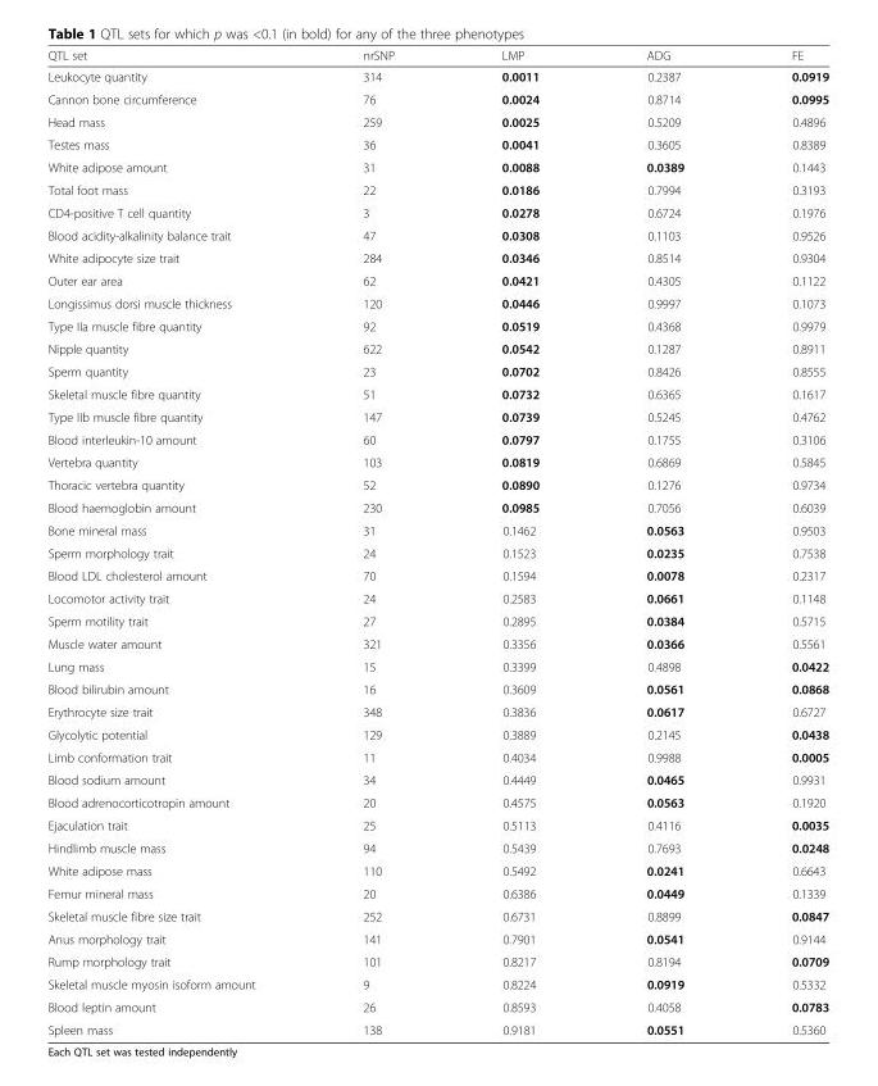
<table><thead><tr><td>QTL set</td><td>nrSNP</td><td>LMP</td><td>ADG</td><td>FE</td></tr></thead><tbody><tr><td>Leukocyte quantity</td><td>314</td><td>0.0011</td><td>0.2387</td><td>0.0919</td></tr><tr><td>Cannon bone circumference</td><td>76</td><td>0.0024</td><td>0.8714</td><td>0.0995</td></tr><tr><td>Head mass</td><td>259</td><td>0.0025</td><td>0.5209</td><td>0.4896</td></tr><tr><td>Testes mass</td><td>36</td><td>0.0041</td><td>0.3605</td><td>0.8389</td></tr><tr><td>White adipose amount</td><td>31</td><td>0.0088</td><td>0.0389</td><td>0.1443</td></tr><tr><td>Total foot mass</td><td>22</td><td>0.0186</td><td>0.7994</td><td>0.3193</td></tr><tr><td>CD4-positive T cell quantity</td><td>3</td><td>0.0278</td><td>0.6724</td><td>0.1976</td></tr><tr><td>Blood acidity-alkalinity balance trait</td><td>47</td><td>0.0308</td><td>0.1103</td><td>0.9526</td></tr><tr><td>White adipocyte size trait</td><td>284</td><td>0.0346</td><td>0.8514</td><td>0.9304</td></tr><tr><td>Outer ear area</td><td>62</td><td>0.0421</td><td>0.4305</td><td>0.1122</td></tr><tr><td>Longissimus dorsi muscle thickness</td><td>120</td><td>0.0446</td><td>0.9997</td><td>0.1073</td></tr><tr><td>Type IIa muscle fibre quantity</td><td>92</td><td>0.0519</td><td>0.4368</td><td>0.9979</td></tr><tr><td>Nipple quantity</td><td>622</td><td>0.0542</td><td>0.1287</td><td>0.8911</td></tr><tr><td>Sperm quantity</td><td>23</td><td>0.0702</td><td>0.8426</td><td>0.8555</td></tr><tr><td>Skeletal muscle fibre quantity</td><td>51</td><td>0.0732</td><td>0.6365</td><td>0.1617</td></tr><tr><td>Type IIb muscle fibre quantity</td><td>147</td><td>0.0739</td><td>0.5245</td><td>0.4762</td></tr><tr><td>Blood interleukin-10 amount</td><td>60</td><td>0.0797</td><td>0.1755</td><td>0.3106</td></tr><tr><td>Vertebra quantity</td><td>103</td><td>0.0819</td><td>0.6869</td><td>0.5845</td></tr><tr><td>Thoracic vertebra quantity</td><td>52</td><td>0.0890</td><td>0.1276</td><td>0.9734</td></tr><tr><td>Blood haemoglobin amount</td><td>230</td><td>0.0985</td><td>0.7056</td><td>0.6039</td></tr><tr><td>Bone mineral mass</td><td>31</td><td>0.1462</td><td>0.0563</td><td>0.9503</td></tr><tr><td>Sperm morphology trait</td><td>24</td><td>0.1523</td><td>0.0235</td><td>0.7538</td></tr><tr><td>Blood LDL cholesterol amount</td><td>70</td><td>0.1594</td><td>0.0078</td><td>0.2317</td></tr><tr><td>Locomotor activity trait</td><td>24</td><td>0.2583</td><td>0.0661</td><td>0.1148</td></tr><tr><td>Sperm motility trait</td><td>27</td><td>0.2895</td><td>0.0384</td><td>0.5715</td></tr><tr><td>Muscle water amount</td><td>321</td><td>0.3356</td><td>0.0366</td><td>0.5561</td></tr><tr><td>Lung mass</td><td>15</td><td>0.3399</td><td>0.4898</td><td>0.0422</td></tr><tr><td>Blood bilirubin amount</td><td>16</td><td>0.3609</td><td>0.0561</td><td>0.0868</td></tr><tr><td>Erythrocyte size trait</td><td>348</td><td>0.3836</td><td>0.0617</td><td>0.6727</td></tr><tr><td>Glycolytic potential</td><td>129</td><td>0.3889</td><td>0.2145</td><td>0.0438</td></tr><tr><td>Limb conformation trait</td><td>11</td><td>0.4034</td><td>0.9988</td><td>0.0005</td></tr><tr><td>Blood sodium amount</td><td>34</td><td>0.4449</td><td>0.0465</td><td>0.9931</td></tr><tr><td>Blood adrenocorticotropin amount</td><td>20</td><td>0.4575</td><td>0.0563</td><td>0.1920</td></tr><tr><td>Ejaculation trait</td><td>25</td><td>0.5113</td><td>0.4116</td><td>0.0035</td></tr><tr><td>Hindlimb muscle mass</td><td>94</td><td>0.5439</td><td>0.7693</td><td>0.0248</td></tr><tr><td>White adipose mass</td><td>110</td><td>0.5492</td><td>0.0241</td><td>0.6643</td></tr><tr><td>Femur mineral mass</td><td>20</td><td>0.6386</td><td>0.0449</td><td>0.1339</td></tr><tr><td>Skeletal muscle fibre size trait</td><td>252</td><td>0.6731</td><td>0.8899</td><td>0.0847</td></tr><tr><td>Anus morphology trait</td><td>141</td><td>0.7901</td><td>0.0541</td><td>0.9144</td></tr><tr><td>Rump morphology trait</td><td>101</td><td>0.8217</td><td>0.8194</td><td>0.0709</td></tr><tr><td>Skeletal muscle myosin isoform amount</td><td>9</td><td>0.8224</td><td>0.0919</td><td>0.5332</td></tr><tr><td>Blood leptin amount</td><td>26</td><td>0.8593</td><td>0.4058</td><td>0.0783</td></tr><tr><td>Spleen mass</td><td>138</td><td>0.9181</td><td>0.0551</td><td>0.5360</td></tr></tbody></table>